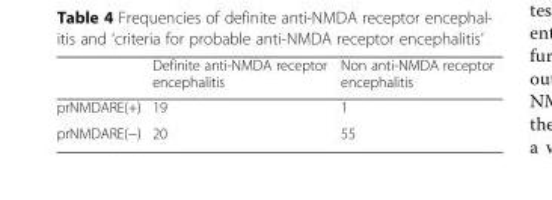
<table><thead><tr><td></td><td>Definite anti-NMDA receptor encephalitis</td><td>Non anti-NMDA receptor encephalitis</td></tr></thead><tbody><tr><td>prNMDARE(+)</td><td>19</td><td>1</td></tr><tr><td>prNMDARE(−)</td><td>20</td><td>55</td></tr></tbody></table>